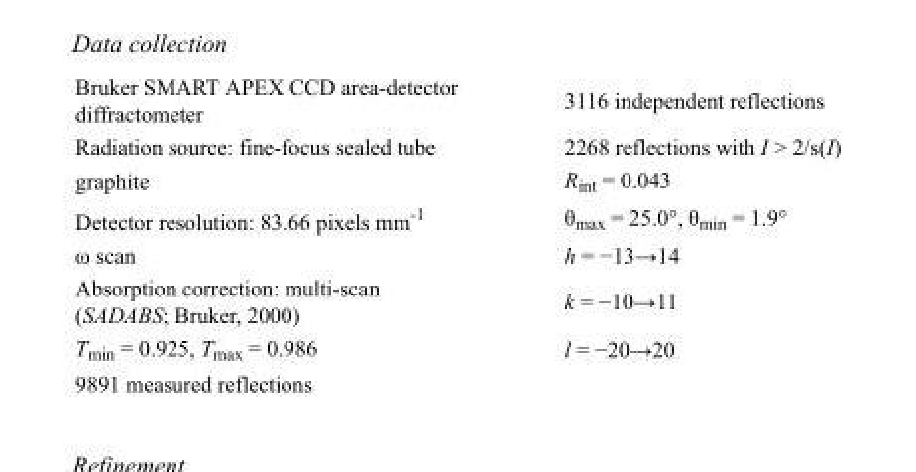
<table><tbody><tr><td>Bruker SMART APEX CCD area-detector diffractometer</td><td>3116 independent reflections</td></tr><tr><td>Radiation source: fine-focus sealed tube</td><td>2268 reflections with I &gt; 2/s(I)</td></tr><tr><td>graphite</td><td>R<sub>int</sub> = 0.043</td></tr><tr><td>Detector resolution: 83.66 pixels mm<sup>-1</sup></td><td>θ<sub>max</sub> = 25.0°, θ<sub>min</sub> = 1.9°</td></tr><tr><td>ω scan</td><td>h = −13→14</td></tr><tr><td>Absorption correction: multi-scan (SADABS; Bruker, 2000)</td><td>k = −10→11</td></tr><tr><td>T<sub>min</sub> = 0.925, T<sub>max</sub> = 0.986</td><td>l = −20→20</td></tr><tr><td>9891 measured reflections</td><td></td></tr></tbody></table>